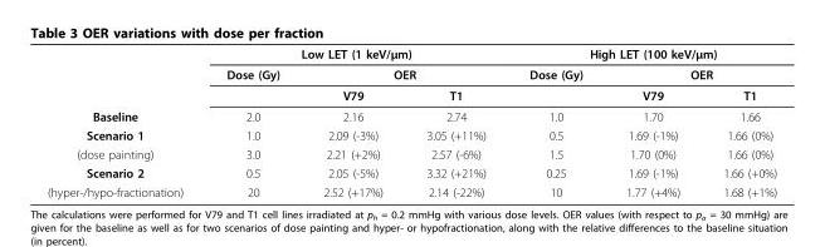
<table><thead><tr><td rowspan="3"></td><td colspan="3">Low LET (1 keV/μm)</td><td colspan="3">High LET (100 keV/μm)</td></tr><tr><td rowspan="2">Dose (Gy)</td><td colspan="2">OER</td><td rowspan="2">Dose (Gy)</td><td colspan="2">OER</td></tr><tr><td>V79</td><td>T1</td><td>V79</td><td>T1</td></tr></thead><tbody><tr><td>Baseline</td><td>2.0</td><td>2.16</td><td>2.74</td><td>1.0</td><td>1.70</td><td>1.66</td></tr><tr><td>Scenario 1</td><td>1.0</td><td>2.09 (-3%)</td><td>3.05 (+11%)</td><td>0.5</td><td>1.69 (-1%)</td><td>1.66 (0%)</td></tr><tr><td>(dose painting)</td><td>3.0</td><td>2.21 (+2%)</td><td>2.57 (-6%)</td><td>1.5</td><td>1.70 (0%)</td><td>1.66 (0%)</td></tr><tr><td>Scenario 2</td><td>0.5</td><td>2.05 (-5%)</td><td>3.32 (+21%)</td><td>0.25</td><td>1.69 (-1%)</td><td>1.66 (+0%)</td></tr><tr><td>(hyper-/hypo-fractionation)</td><td>20</td><td>2.52 (+17%)</td><td>2.14 (-22%)</td><td>10</td><td>1.77 (+4%)</td><td>1.68 (+1%)</td></tr></tbody></table>